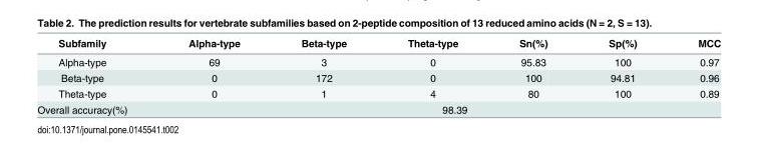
<table><thead><tr><td>Subfamily</td><td>Alpha-type</td><td>Beta-type</td><td>Theta-type</td><td>Sn(%)</td><td>Sp(%)</td><td>MCC</td></tr></thead><tbody><tr><td>Alpha-type</td><td>69</td><td>3</td><td>0</td><td>95.83</td><td>100</td><td>0.97</td></tr><tr><td>Beta-type</td><td>0</td><td>172</td><td>0</td><td>100</td><td>94.81</td><td>0.96</td></tr><tr><td>Theta-type</td><td>0</td><td>1</td><td>4</td><td>80</td><td>100</td><td>0.89</td></tr><tr><td>Overall accuracy(%)</td><td colspan="6">98.39</td></tr></tbody></table>